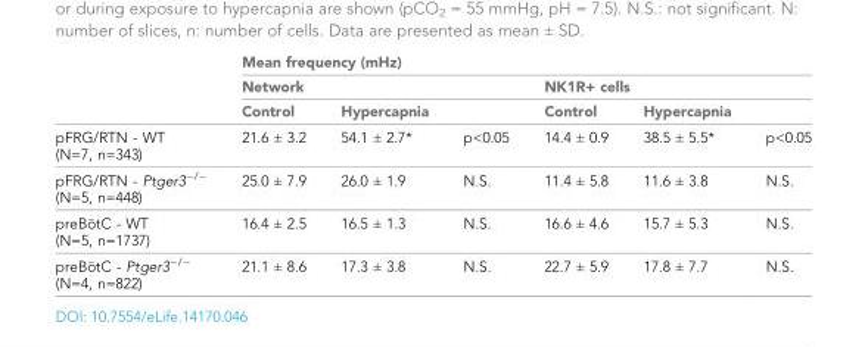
<table><thead><tr><td rowspan="3"></td><td colspan="6">Mean frequency (mHz)</td></tr><tr><td colspan="3">Network</td><td colspan="3">NK1R+ cells</td></tr><tr><td>Control</td><td>Hypercapnia</td><td></td><td>Control</td><td>Hypercapnia</td><td></td></tr></thead><tbody><tr><td>pFRG/RTN - WT (N=7, n=343)</td><td>21.6 ± 3.2</td><td>54.1 ± 2.7*</td><td>p&lt;0.05</td><td>14.4 ± 0.9</td><td>38.5 ± 5.5*</td><td>p&lt;0.05</td></tr><tr><td>pFRG/RTN - Ptger3<sup>−/−</sup> (N=5, n=448)</td><td>25.0 ± 7.9</td><td>26.0 ± 1.9</td><td>N.S.</td><td>11.4 ± 5.8</td><td>11.6 ± 3.8</td><td>N.S.</td></tr><tr><td>preBo¨ tC - WT (N=5, n=1737)</td><td>16.4 ± 2.5</td><td>16.5 ± 1.3</td><td>N.S.</td><td>16.6 ± 4.6</td><td>15.7 ± 5.3</td><td>N.S.</td></tr><tr><td>preBo¨ tC - Ptger3�/� (N=4, n=822)</td><td>21.1 ± 8.6</td><td>17.3 ± 3.8</td><td>N.S.</td><td>22.7 ± 5.9</td><td>17.8 ± 7.7</td><td>N.S.</td></tr></tbody></table>